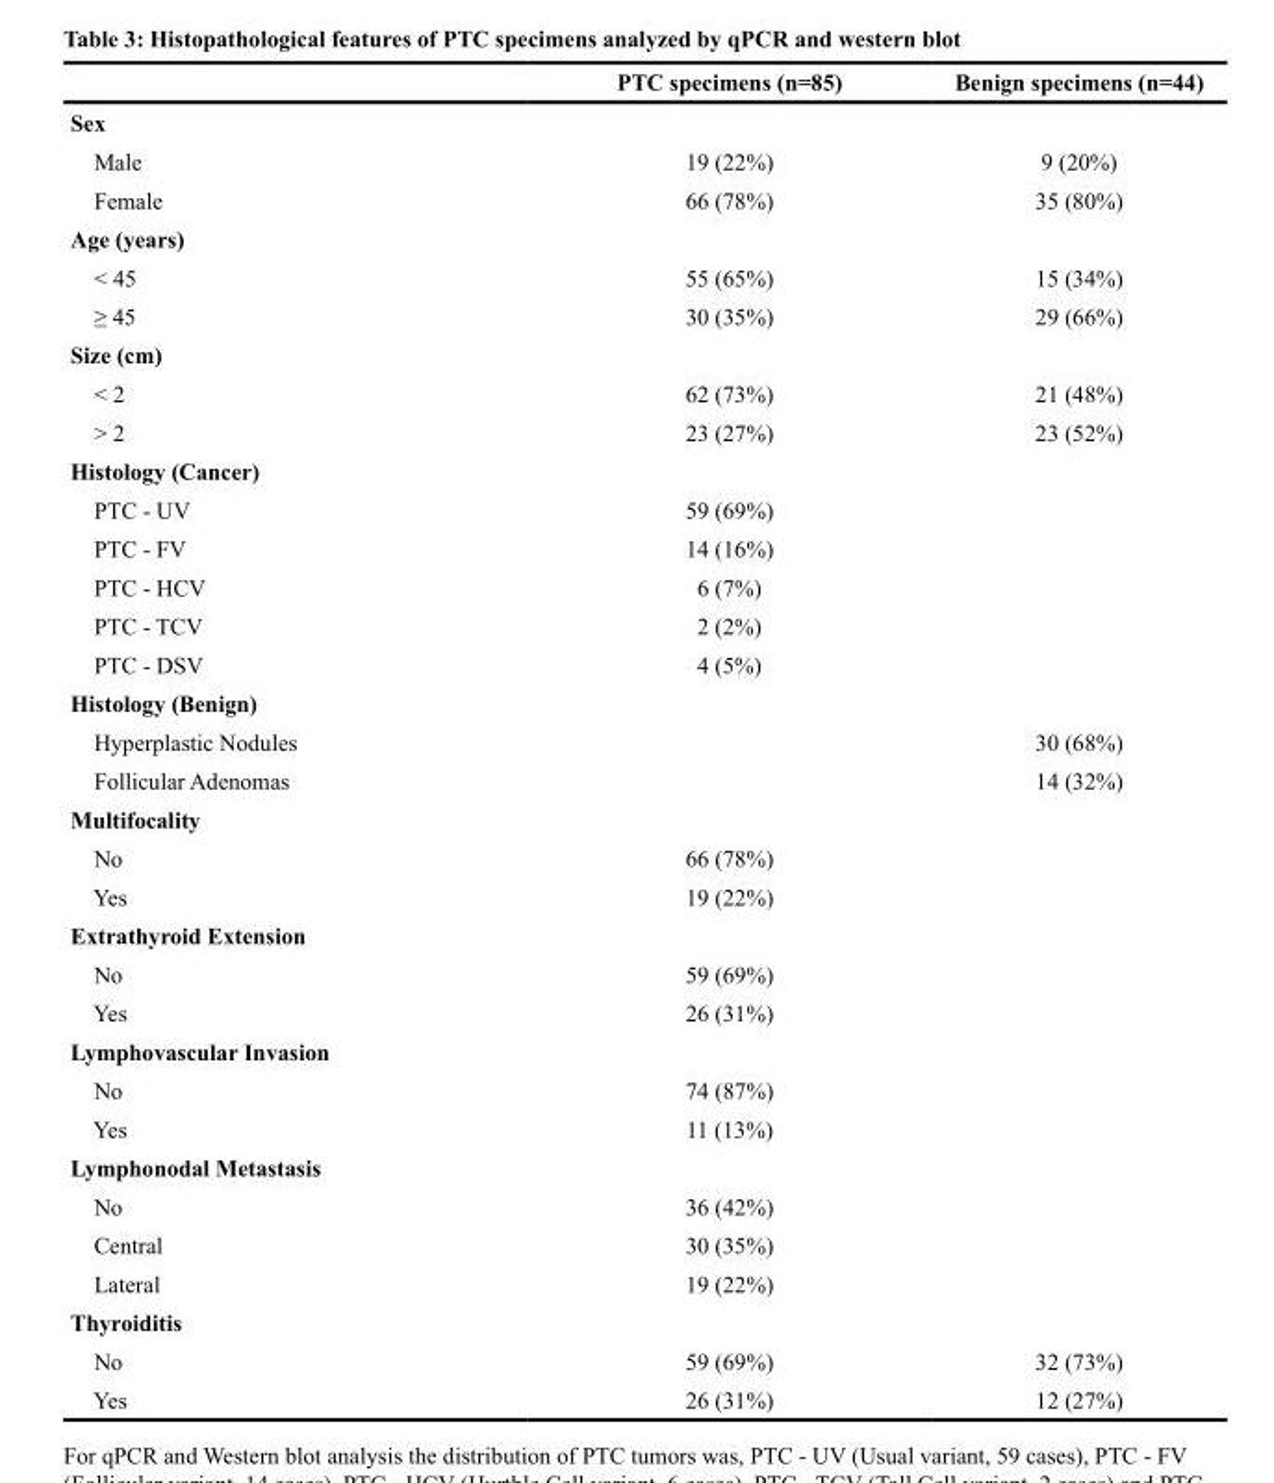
<table><thead><tr><td></td><td>PTC specimens (n=85)</td><td>Benign specimens (n=44)</td></tr></thead><tbody><tr><td colspan="3">Sex</td></tr><tr><td>Male</td><td>19 (22%)</td><td>9 (20%)</td></tr><tr><td>Female</td><td>66 (78%)</td><td>35 (80%)</td></tr><tr><td colspan="3">Age (years)</td></tr><tr><td>&lt; 45</td><td>55 (65%)</td><td>15 (34%)</td></tr><tr><td>≥ 45</td><td>30 (35%)</td><td>29 (66%)</td></tr><tr><td colspan="3">Size (cm)</td></tr><tr><td>&lt; 2</td><td>62 (73%)</td><td>21 (48%)</td></tr><tr><td>&gt; 2</td><td>23 (27%)</td><td>23 (52%)</td></tr><tr><td colspan="3">Histology (Cancer)</td></tr><tr><td>PTC - UV</td><td>59 (69%)</td><td></td></tr><tr><td>PTC - FV</td><td>14 (16%)</td><td></td></tr><tr><td>PTC - HCV</td><td>6 (7%)</td><td></td></tr><tr><td>PTC - TCV</td><td>2 (2%)</td><td></td></tr><tr><td>PTC - DSV</td><td>4 (5%)</td><td></td></tr><tr><td colspan="3">Histology (Benign)</td></tr><tr><td>Hyperplastic Nodules</td><td></td><td>30 (68%)</td></tr><tr><td>Follicular Adenomas</td><td></td><td>14 (32%)</td></tr><tr><td colspan="3">Multifocality</td></tr><tr><td>No</td><td>66 (78%)</td><td></td></tr><tr><td>Yes</td><td>19 (22%)</td><td></td></tr><tr><td colspan="3">Extrathyroid Extension</td></tr><tr><td>No</td><td>59 (69%)</td><td></td></tr><tr><td>Yes</td><td>26 (31%)</td><td></td></tr><tr><td colspan="3">Lymphovascular Invasion</td></tr><tr><td>No</td><td>74 (87%)</td><td></td></tr><tr><td>Yes</td><td>11 (13%)</td><td></td></tr><tr><td colspan="3">Lymphonodal Metastasis</td></tr><tr><td>No</td><td>36 (42%)</td><td></td></tr><tr><td>Central</td><td>30 (35%)</td><td></td></tr><tr><td>Lateral</td><td>19 (22%)</td><td></td></tr><tr><td colspan="3">Thyroiditis</td></tr><tr><td>No</td><td>59 (69%)</td><td>32 (73%)</td></tr><tr><td>Yes</td><td>26 (31%)</td><td>12 (27%)</td></tr></tbody></table>